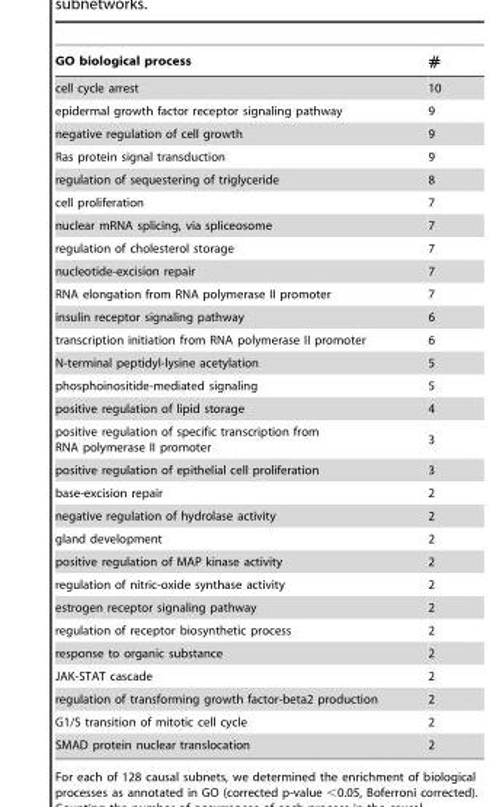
<table><thead><tr><td>GO biological process</td><td>#</td></tr></thead><tbody><tr><td>cell cycle arrest</td><td>10</td></tr><tr><td>epidermal growth factor receptor signaling pathway</td><td>9</td></tr><tr><td>negative regulation of cell growth</td><td>9</td></tr><tr><td>Ras protein signal transduction</td><td>9</td></tr><tr><td>regulation of sequestering of triglyceride</td><td>8</td></tr><tr><td>cell proliferation</td><td>7</td></tr><tr><td>nuclear mRNA splicing, via spliceosome</td><td>7</td></tr><tr><td>regulation of cholesterol storage</td><td>7</td></tr><tr><td>nucleotide-excision repair</td><td>7</td></tr><tr><td>RNA elongation from RNA polymerase II promoter</td><td>7</td></tr><tr><td>insulin receptor signaling pathway</td><td>6</td></tr><tr><td>transcription initiation from RNA polymerase II promoter</td><td>6</td></tr><tr><td>N-terminal peptidyl-lysine acetylation</td><td>5</td></tr><tr><td>phosphoinositide-mediated signaling</td><td>5</td></tr><tr><td>positive regulation of lipid storage</td><td>4</td></tr><tr><td>positive regulation of specific transcription from RNA polymerase II promoter</td><td>3</td></tr><tr><td>positive regulation of epithelial cell proliferation</td><td>3</td></tr><tr><td>base-excision repair</td><td>2</td></tr><tr><td>negative regulation of hydrolase activity</td><td>2</td></tr><tr><td>gland development</td><td>2</td></tr><tr><td>positive regulation of MAP kinase activity</td><td>2</td></tr><tr><td>regulation of nitric-oxide synthase activity</td><td>2</td></tr><tr><td>estrogen receptor signaling pathway</td><td>2</td></tr><tr><td>regulation of receptor biosynthetic process</td><td>2</td></tr><tr><td>response to organic substance</td><td>2</td></tr><tr><td>JAK-STAT cascade</td><td>2</td></tr><tr><td>regulation of transforming growth factor-beta2 production</td><td>2</td></tr><tr><td>G1/S transition of mitotic cell cycle</td><td>2</td></tr><tr><td>SMAD protein nuclear translocation</td><td>2</td></tr></tbody></table>